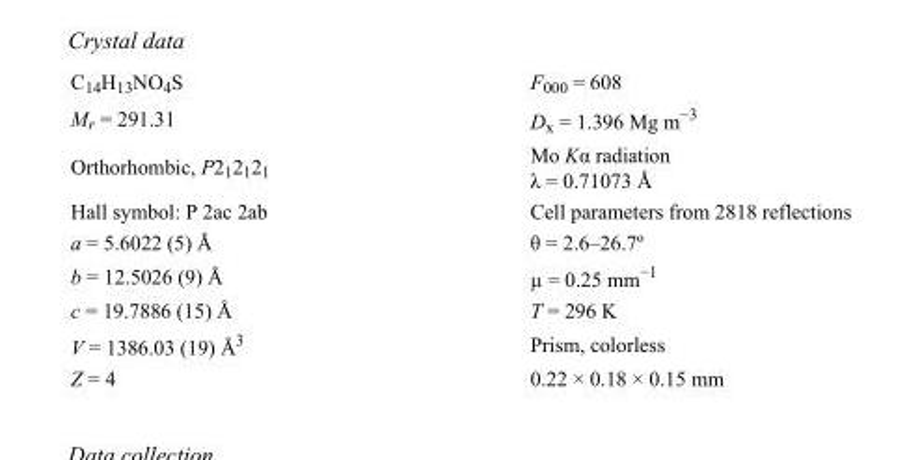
<table><tbody><tr><td>C<sub>14</sub>H<sub>13</sub>NO<sub>4</sub>S</td><td>F000 = 608</td></tr><tr><td>M<sub>r</sub> = 291.31</td><td>D<sub>x</sub> = 1.396 Mg m<sup>−3</sup></td></tr><tr><td>Orthorhombic, P2<sub>1</sub>2<sub>1</sub>2<sub>1</sub></td><td>Mo Kα radiation λ = 0.71073 Å</td></tr><tr><td>Hall symbol: P 2ac 2ab</td><td>Cell parameters from 2818 reflections</td></tr><tr><td>a = 5.6022 (5) Å</td><td>θ = 2.6–26.7º</td></tr><tr><td>b = 12.5026 (9) Å</td><td>µ = 0.25 mm<sup>−1</sup></td></tr><tr><td>c = 19.7886 (15) Å</td><td>T = 296 K</td></tr><tr><td>V = 1386.03 (19) Å<sup>3</sup></td><td>Prism, colorless</td></tr><tr><td>Z = 4</td><td>0.22 × 0.18 × 0.15 mm</td></tr></tbody></table>